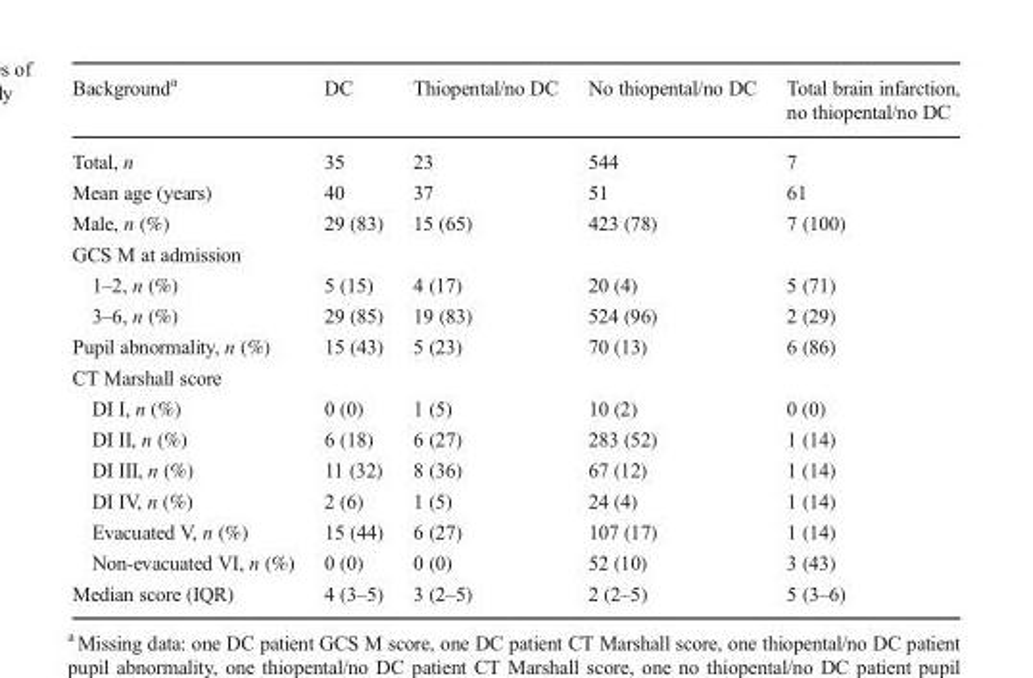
<table><thead><tr><td>Background<sup>a</sup></td><td>DC</td><td>Thiopental/no DC</td><td>No thiopental/no DC</td><td>Total brain infarction, no thiopental/no DC</td></tr></thead><tbody><tr><td>Total, n</td><td>35</td><td>23</td><td>544</td><td>7</td></tr><tr><td>Mean age (years)</td><td>40</td><td>37</td><td>51</td><td>61</td></tr><tr><td>Male, n (%)</td><td>29 (83)</td><td>15 (65)</td><td>423 (78)</td><td>7 (100)</td></tr><tr><td colspan="5">GCS M at admission</td></tr><tr><td>1–2, n (%)</td><td>5 (15)</td><td>4 (17)</td><td>20 (4)</td><td>5 (71)</td></tr><tr><td>3–6, n (%)</td><td>29 (85)</td><td>19 (83)</td><td>524 (96)</td><td>2 (29)</td></tr><tr><td>Pupil abnormality, n (%)</td><td>15 (43)</td><td>5 (23)</td><td>70 (13)</td><td>6 (86)</td></tr><tr><td colspan="5">CT Marshall score</td></tr><tr><td>DI I, n (%)</td><td>0 (0)</td><td>1 (5)</td><td>10 (2)</td><td>0 (0)</td></tr><tr><td>DI II, n (%)</td><td>6 (18)</td><td>6 (27)</td><td>283 (52)</td><td>1 (14)</td></tr><tr><td>DI III, n (%)</td><td>11 (32)</td><td>8 (36)</td><td>67 (12)</td><td>1 (14)</td></tr><tr><td>DI IV, n (%)</td><td>2 (6)</td><td>1 (5)</td><td>24 (4)</td><td>1 (14)</td></tr><tr><td>Evacuated V, n (%)</td><td>15 (44)</td><td>6 (27)</td><td>107 (17)</td><td>1 (14)</td></tr><tr><td>Non-evacuated VI, n (%)</td><td>0 (0)</td><td>0 (0)</td><td>52 (10)</td><td>3 (43)</td></tr><tr><td>Median score (IQR)</td><td>4 (3–5)</td><td>3 (2–5)</td><td>2 (2–5)</td><td>5 (3–6)</td></tr></tbody></table>